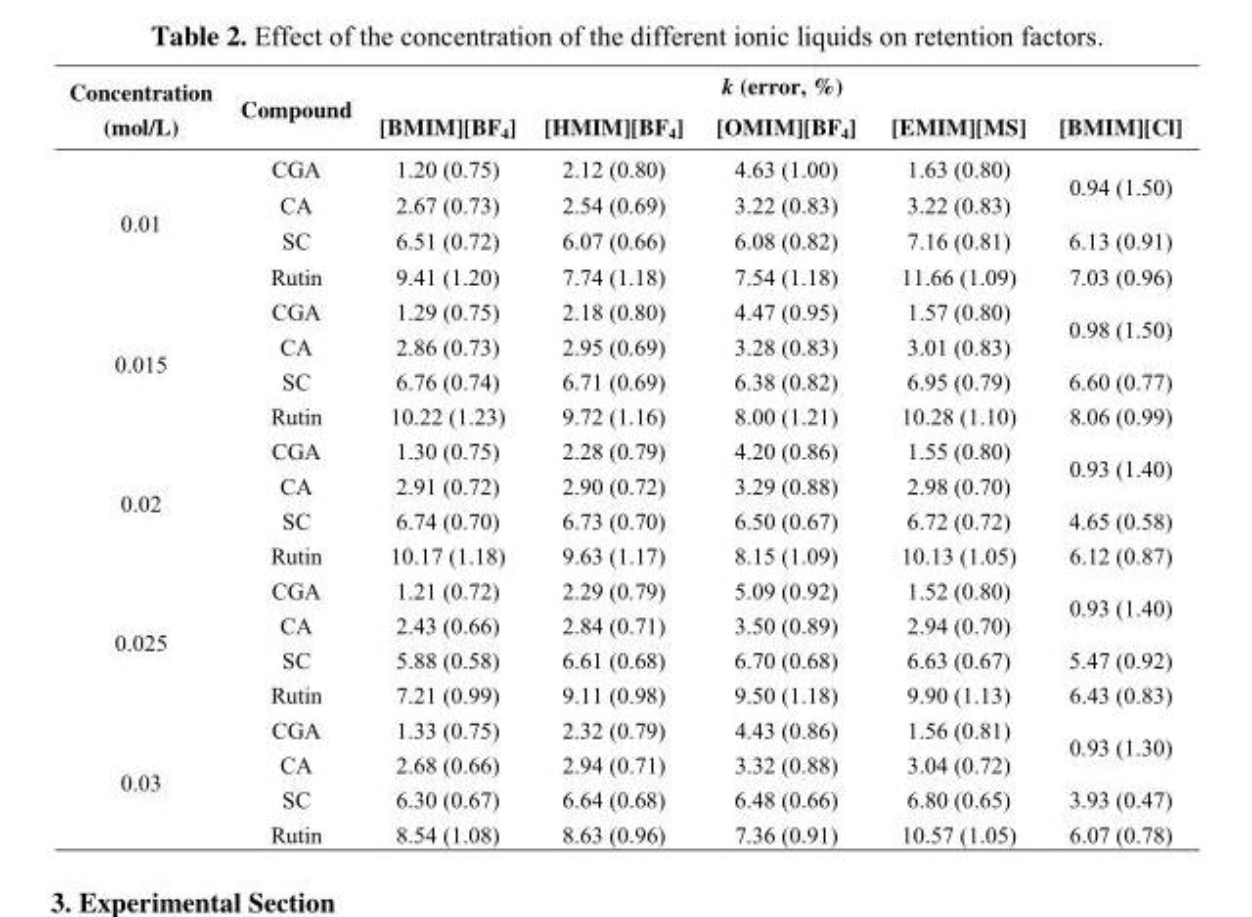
<table><thead><tr><td rowspan="2">Concentration (mol/L)</td><td rowspan="2">Compound</td><td colspan="5">k (error, %)</td></tr><tr><td>[BMIM][BF<sub>4</sub>]</td><td>[HMIM][BF<sub>4</sub>]</td><td>[OMIM][BF<sub>4</sub>]</td><td>[EMIM][MS]</td><td>[BMIM][Cl]</td></tr></thead><tbody><tr><td rowspan="4">0.01</td><td>CGA</td><td>1.20 (0.75)</td><td>2.12 (0.80)</td><td>4.63 (1.00)</td><td>1.63 (0.80)</td><td rowspan="2">0.94 (1.50)</td></tr><tr><td>CA</td><td>2.67 (0.73)</td><td>2.54 (0.69)</td><td>3.22 (0.83)</td><td>3.22 (0.83)</td></tr><tr><td>SC</td><td>6.51 (0.72)</td><td>6.07 (0.66)</td><td>6.08 (0.82)</td><td>7.16 (0.81)</td><td>6.13 (0.91)</td></tr><tr><td>Rutin</td><td>9.41 (1.20)</td><td>7.74 (1.18)</td><td>7.54 (1.18)</td><td>11.66 (1.09)</td><td>7.03 (0.96)</td></tr><tr><td rowspan="4">0.015</td><td>CGA</td><td>1.29 (0.75)</td><td>2.18 (0.80)</td><td>4.47 (0.95)</td><td>1.57 (0.80)</td><td rowspan="2">0.98 (1.50)</td></tr><tr><td>CA</td><td>2.86 (0.73)</td><td>2.95 (0.69)</td><td>3.28 (0.83)</td><td>3.01 (0.83)</td></tr><tr><td>SC</td><td>6.76 (0.74)</td><td>6.71 (0.69)</td><td>6.38 (0.82)</td><td>6.95 (0.79)</td><td>6.60 (0.77)</td></tr><tr><td>Rutin</td><td>10.22 (1.23)</td><td>9.72 (1.16)</td><td>8.00 (1.21)</td><td>10.28 (1.10)</td><td>8.06 (0.99)</td></tr><tr><td rowspan="4">0.02</td><td>CGA</td><td>1.30 (0.75)</td><td>2.28 (0.79)</td><td>4.20 (0.86)</td><td>1.55 (0.80)</td><td rowspan="2">0.93 (1.40)</td></tr><tr><td>CA</td><td>2.91 (0.72)</td><td>2.90 (0.72)</td><td>3.29 (0.88)</td><td>2.98 (0.70)</td></tr><tr><td>SC</td><td>6.74 (0.70)</td><td>6.73 (0.70)</td><td>6.50 (0.67)</td><td>6.72 (0.72)</td><td>4.65 (0.58)</td></tr><tr><td>Rutin</td><td>10.17 (1.18)</td><td>9.63 (1.17)</td><td>8.15 (1.09)</td><td>10.13 (1.05)</td><td>6.12 (0.87)</td></tr><tr><td rowspan="4">0.025</td><td>CGA</td><td>1.21 (0.72)</td><td>2.29 (0.79)</td><td>5.09 (0.92)</td><td>1.52 (0.80)</td><td rowspan="2">0.93 (1.40)</td></tr><tr><td>CA</td><td>2.43 (0.66)</td><td>2.84 (0.71)</td><td>3.50 (0.89)</td><td>2.94 (0.70)</td></tr><tr><td>SC</td><td>5.88 (0.58)</td><td>6.61 (0.68)</td><td>6.70 (0.68)</td><td>6.63 (0.67)</td><td>5.47 (0.92)</td></tr><tr><td>Rutin</td><td>7.21 (0.99)</td><td>9.11 (0.98)</td><td>9.50 (1.18)</td><td>9.90 (1.13)</td><td>6.43 (0.83)</td></tr><tr><td rowspan="4">0.03</td><td>CGA</td><td>1.33 (0.75)</td><td>2.32 (0.79)</td><td>4.43 (0.86)</td><td>1.56 (0.81)</td><td rowspan="2">0.93 (1.30)</td></tr><tr><td>CA</td><td>2.68 (0.66)</td><td>2.94 (0.71)</td><td>3.32 (0.88)</td><td>3.04 (0.72)</td></tr><tr><td>SC</td><td>6.30 (0.67)</td><td>6.64 (0.68)</td><td>6.48 (0.66)</td><td>6.80 (0.65)</td><td>3.93 (0.47)</td></tr><tr><td>Rutin</td><td>8.54 (1.08)</td><td>8.63 (0.96)</td><td>7.36 (0.91)</td><td>10.57 (1.05)</td><td>6.07 (0.78)</td></tr></tbody></table>